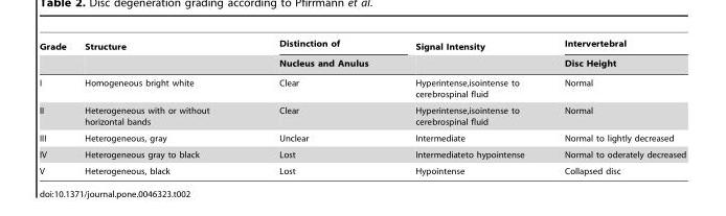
<table><thead><tr><td rowspan="2">Grade</td><td rowspan="2">Structure</td><td rowspan="2">Distinction of Nucleus and Anulus</td><td rowspan="2">Signal Intensity</td><td rowspan="2">Intervertebral Disc Height</td></tr><tr></tr></thead><tbody><tr><td>I</td><td>Homogeneous bright white</td><td>Clear</td><td>Hyperintense,isointense to cerebrospinal fluid</td><td>Normal</td></tr><tr><td>II</td><td>Heterogeneous with or without horizontal bands</td><td>Clear</td><td>Hyperintense,isointense to cerebrospinal fluid</td><td>Normal</td></tr><tr><td>III</td><td>Heterogeneous, gray</td><td>Unclear</td><td>Intermediate</td><td>Normal to lightly decreased</td></tr><tr><td>IV</td><td>Heterogeneous gray to black</td><td>Lost</td><td>Intermediateto hypointense</td><td>Normal to oderately decreased</td></tr><tr><td>V</td><td>Heterogeneous, black</td><td>Lost</td><td>Hypointense</td><td>Collapsed disc</td></tr></tbody></table>